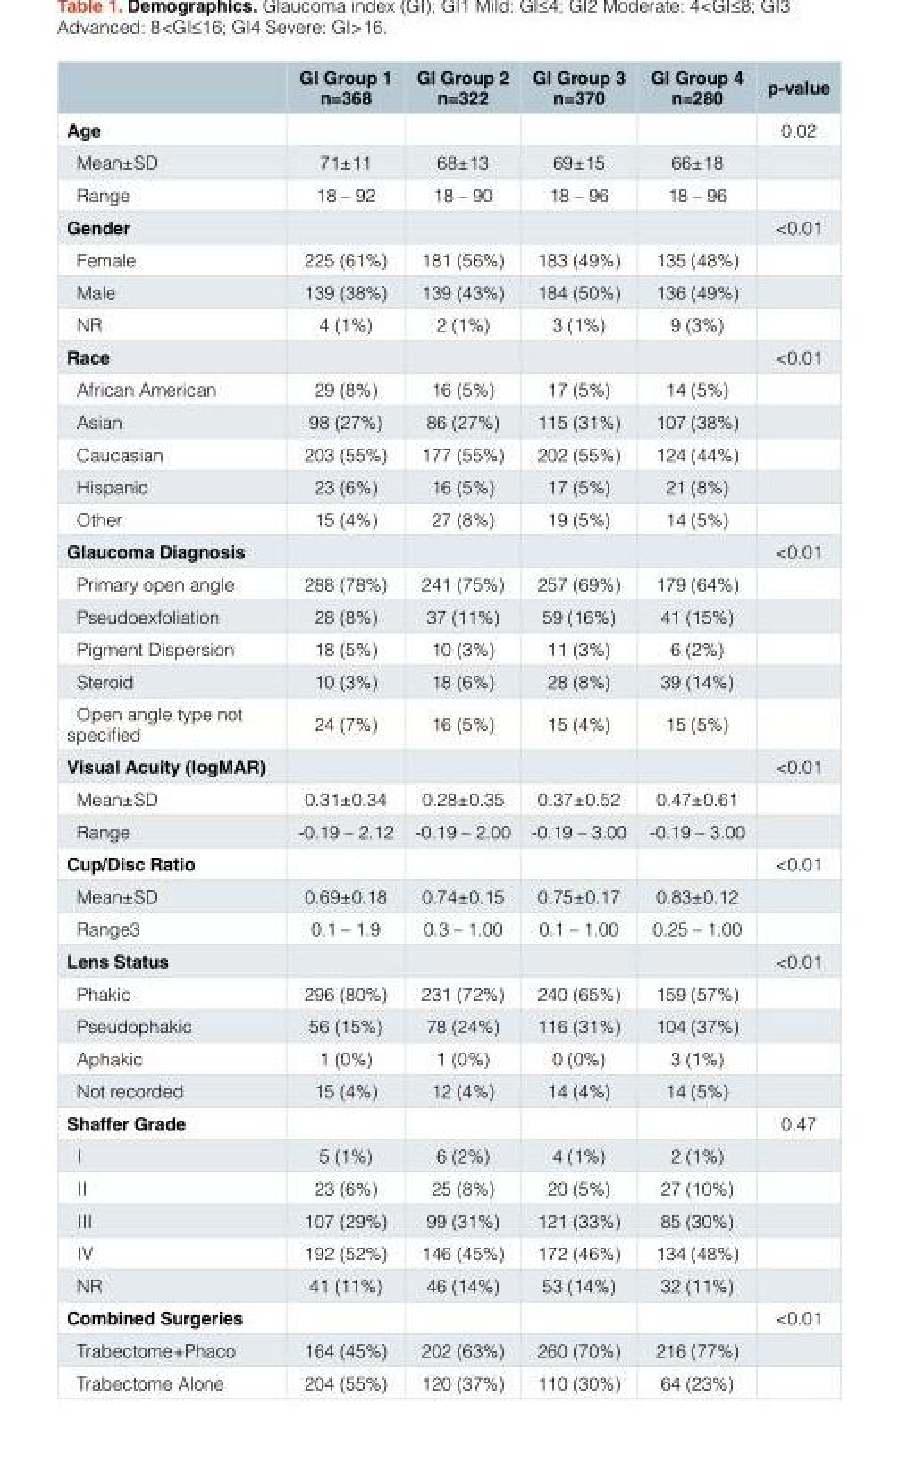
<table><thead><tr><td></td><td>GI Group 1 n=368</td><td>GI Group 2 n=322</td><td>GI Group 3 n=370</td><td>GI Group 4 n=280</td><td>p-value</td></tr></thead><tbody><tr><td>Age</td><td></td><td></td><td></td><td></td><td>0.02</td></tr><tr><td>Mean±SD</td><td>71±11</td><td>68±13</td><td>69±15</td><td>66±18</td><td></td></tr><tr><td>Range</td><td>18 – 92</td><td>18 – 90</td><td>18 – 96</td><td>18 – 96</td><td></td></tr><tr><td>Gender</td><td></td><td></td><td></td><td></td><td>&lt;0.01</td></tr><tr><td>Female</td><td>225 (61%)</td><td>181 (56%)</td><td>183 (49%)</td><td>135 (48%)</td><td></td></tr><tr><td>Male</td><td>139 (38%)</td><td>139 (43%)</td><td>184 (50%)</td><td>136 (49%)</td><td></td></tr><tr><td>NR</td><td>4 (1%)</td><td>2 (1%)</td><td>3 (1%)</td><td>9 (3%)</td><td></td></tr><tr><td>Race</td><td></td><td></td><td></td><td></td><td>&lt;0.01</td></tr><tr><td>African American</td><td>29 (8%)</td><td>16 (5%)</td><td>17 (5%)</td><td>14 (5%)</td><td></td></tr><tr><td>Asian</td><td>98 (27%)</td><td>86 (27%)</td><td>115 (31%)</td><td>107 (38%)</td><td></td></tr><tr><td>Caucasian</td><td>203 (55%)</td><td>177 (55%)</td><td>202 (55%)</td><td>124 (44%)</td><td></td></tr><tr><td>Hispanic</td><td>23 (6%)</td><td>16 (5%)</td><td>17 (5%)</td><td>21 (8%)</td><td></td></tr><tr><td>Other</td><td>15 (4%)</td><td>27 (8%)</td><td>19 (5%)</td><td>14 (5%)</td><td></td></tr><tr><td>Glaucoma Diagnosis</td><td></td><td></td><td></td><td></td><td>&lt;0.01</td></tr><tr><td>Primary open angle</td><td>288 (78%)</td><td>241 (75%)</td><td>257 (69%)</td><td>179 (64%)</td><td></td></tr><tr><td>Pseudoexfoliation</td><td>28 (8%)</td><td>37 (11%)</td><td>59 (16%)</td><td>41 (15%)</td><td></td></tr><tr><td>Pigment Dispersion</td><td>18 (5%)</td><td>10 (3%)</td><td>11 (3%)</td><td>6 (2%)</td><td></td></tr><tr><td>Steroid</td><td>10 (3%)</td><td>18 (6%)</td><td>28 (8%)</td><td>39 (14%)</td><td></td></tr><tr><td>Open angle type not specified</td><td>24 (7%)</td><td>16 (5%)</td><td>15 (4%)</td><td>15 (5%)</td><td></td></tr><tr><td>Visual Acuity (logMAR)</td><td></td><td></td><td></td><td></td><td>&lt;0.01</td></tr><tr><td>Mean±SD</td><td>0.31±0.34</td><td>0.28±0.35</td><td>0.37±0.52</td><td>0.47±0.61</td><td></td></tr><tr><td>Range</td><td>-0.19 – 2.12</td><td>-0.19 – 2.00</td><td>-0.19 – 3.00</td><td>-0.19 – 3.00</td><td></td></tr><tr><td>Cup/Disc Ratio</td><td></td><td></td><td></td><td></td><td>&lt;0.01</td></tr><tr><td>Mean±SD</td><td>0.69±0.18</td><td>0.74±0.15</td><td>0.75±0.17</td><td>0.83±0.12</td><td></td></tr><tr><td>Range3</td><td>0.1 – 1.9</td><td>0.3 – 1.00</td><td>0.1 – 1.00</td><td>0.25 – 1.00</td><td></td></tr><tr><td>Lens Status</td><td></td><td></td><td></td><td></td><td>&lt;0.01</td></tr><tr><td>Phakic</td><td>296 (80%)</td><td>231 (72%)</td><td>240 (65%)</td><td>159 (57%)</td><td></td></tr><tr><td>Pseudophakic</td><td>56 (15%)</td><td>78 (24%)</td><td>116 (31%)</td><td>104 (37%)</td><td></td></tr><tr><td>Aphakic</td><td>1 (0%)</td><td>1 (0%)</td><td>0 (0%)</td><td>3 (1%)</td><td></td></tr><tr><td>Not recorded</td><td>15 (4%)</td><td>12 (4%)</td><td>14 (4%)</td><td>14 (5%)</td><td></td></tr><tr><td>Shaffer Grade</td><td></td><td></td><td></td><td></td><td>0.47</td></tr><tr><td>I</td><td>5 (1%)</td><td>6 (2%)</td><td>4 (1%)</td><td>2 (1%)</td><td></td></tr><tr><td>II</td><td>23 (6%)</td><td>25 (8%)</td><td>20 (5%)</td><td>27 (10%)</td><td></td></tr><tr><td>III</td><td>107 (29%)</td><td>99 (31%)</td><td>121 (33%)</td><td>85 (30%)</td><td></td></tr><tr><td>IV</td><td>192 (52%)</td><td>146 (45%)</td><td>172 (46%)</td><td>134 (48%)</td><td></td></tr><tr><td>NR</td><td>41 (11%)</td><td>46 (14%)</td><td>53 (14%)</td><td>32 (11%)</td><td></td></tr><tr><td>Combined Surgeries</td><td></td><td></td><td></td><td></td><td>&lt;0.01</td></tr><tr><td>Trabectome+Phaco</td><td>164 (45%)</td><td>202 (63%)</td><td>260 (70%)</td><td>216 (77%)</td><td></td></tr><tr><td>Trabectome Alone</td><td>204 (55%)</td><td>120 (37%)</td><td>110 (30%)</td><td>64 (23%)</td><td></td></tr></tbody></table>